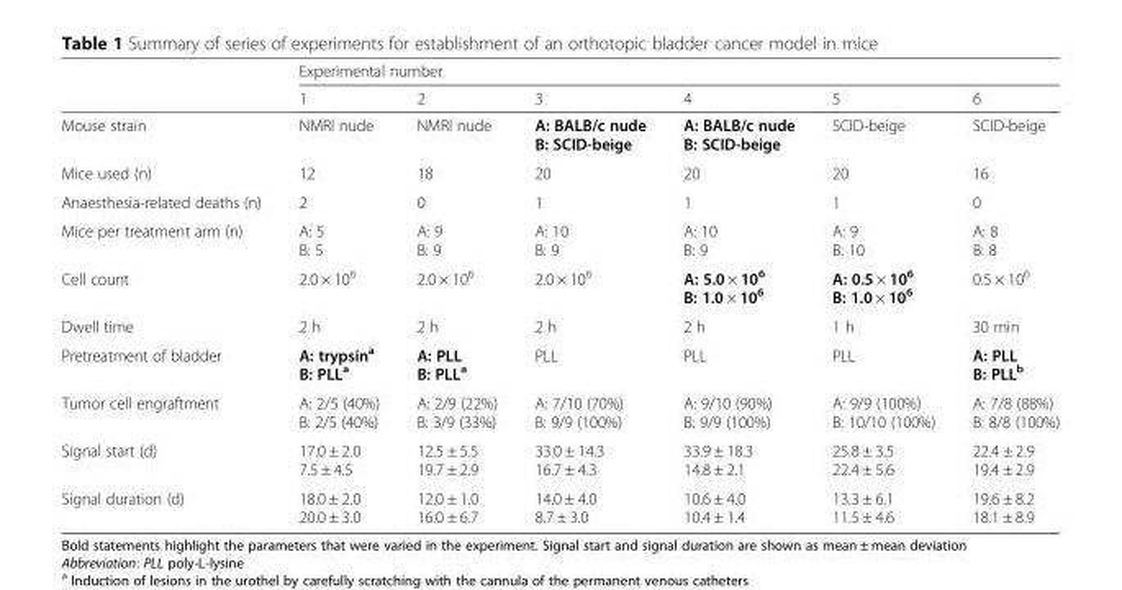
<table><thead><tr><td rowspan="2"></td><td colspan="6">Experimental number</td></tr><tr><td>1</td><td>2</td><td>3</td><td>4</td><td>5</td><td>6</td></tr></thead><tbody><tr><td>Mouse strain</td><td>NMRI nude</td><td>NMRI nude</td><td>A: BALB/c nude B: SCID-beige</td><td>A: BALB/c nude B: SCID-beige</td><td>SCID-beige</td><td>SCID-beige</td></tr><tr><td>Mice used (n)</td><td>12</td><td>18</td><td>20</td><td>20</td><td>20</td><td>16</td></tr><tr><td>Anaesthesia-related deaths (n)</td><td>2</td><td>0</td><td>1</td><td>1</td><td>1</td><td>0</td></tr><tr><td>Mice per treatment arm (n)</td><td>A: 5 B: 5</td><td>A: 9 B: 9</td><td>A: 10 B: 9</td><td>A: 10 B: 9</td><td>A: 9 B: 10</td><td>A: 8 B: 8</td></tr><tr><td>Cell count</td><td>2.0 × 10<sup>6</sup></td><td>2.0 × 10<sup>6</sup></td><td>2.0 × 10<sup>6</sup></td><td>A: 5.0 × 10<sup>6</sup> B: 1.0 × 10<sup>6</sup></td><td>A: 0.5 × 10<sup>6</sup> B: 1.0 × 10<sup>6</sup></td><td>0.5 × 10<sup>6</sup></td></tr><tr><td>Dwell time</td><td>2 h</td><td>2 h</td><td>2 h</td><td>2 h</td><td>1 h</td><td>30 min</td></tr><tr><td>Pretreatment of bladder</td><td>A: trypsin<sup>a</sup> B: PLL<sup>a</sup></td><td>A: PLL B: PLL<sup>a</sup></td><td>PLL</td><td>PLL</td><td>PLL</td><td>A: PLL B: PLL<sup>b</sup></td></tr><tr><td>Tumor cell engraftment</td><td>A: 2/5 (40%) B: 2/5 (40%)</td><td>A: 2/9 (22%) B: 3/9 (33%)</td><td>A: 7/10 (70%) B: 9/9 (100%)</td><td>A: 9/10 (90%) B: 9/9 (100%)</td><td>A: 9/9 (100%) B: 10/10 (100%)</td><td>A: 7/8 (88%) B: 8/8 (100%)</td></tr><tr><td>Signal start (d)</td><td>17.0 ± 2.0 7.5 ± 4.5</td><td>12.5 ± 5.5 19.7 ± 2.9</td><td>33.0 ± 14.3 16.7 ± 4.3</td><td>33.9 ± 18.3 14.8 ± 2.1</td><td>25.8 ± 3.5 22.4 ± 5.6</td><td>22.4 ± 2.9 19.4 ± 2.9</td></tr><tr><td>Signal duration (d)</td><td>18.0 ± 2.0 20.0 ± 3.0</td><td>12.0 ± 1.0 16.0 ± 6.7</td><td>14.0 ± 4.0 8.7 ± 3.0</td><td>10.6 ± 4.0 10.4 ± 1.4</td><td>13.3 ± 6.1 11.5 ± 4.6</td><td>19.6 ± 8.2 18.1 ± 8.9</td></tr></tbody></table>